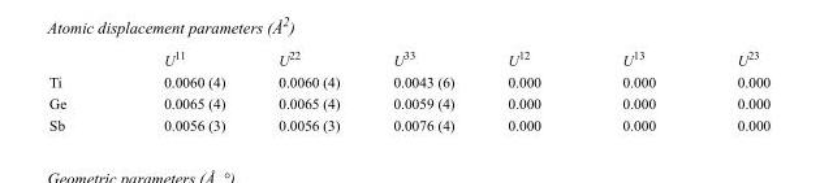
<table><thead><tr><td></td><td>U<sup>11</sup></td><td>U<sup>22</sup></td><td>U<sup>33</sup></td><td>U<sup>12</sup></td><td>U<sup>13</sup></td><td>U<sup>23</sup></td></tr></thead><tbody><tr><td>Ti</td><td>0.0060 (4)</td><td>0.0060 (4)</td><td>0.0043 (6)</td><td>0.000</td><td>0.000</td><td>0.000</td></tr><tr><td>Ge</td><td>0.0065 (4)</td><td>0.0065 (4)</td><td>0.0059 (4)</td><td>0.000</td><td>0.000</td><td>0.000</td></tr><tr><td>Sb</td><td>0.0056 (3)</td><td>0.0056 (3)</td><td>0.0076 (4)</td><td>0.000</td><td>0.000</td><td>0.000</td></tr></tbody></table>